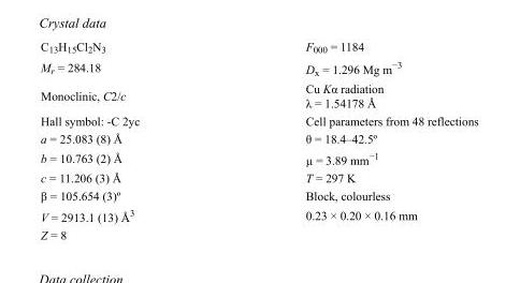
<table><tbody><tr><td>C<sub>13</sub>H<sub>15</sub>Cl<sub>2</sub>N<sub>3</sub></td><td>F000 = 1184</td></tr><tr><td>M<sub>r</sub> = 284.18</td><td>D<sub>x</sub> = 1.296 Mg m<sup>−3</sup></td></tr><tr><td>Monoclinic, C2/c</td><td>Cu Kα radiation λ = 1.54178 Å</td></tr><tr><td>Hall symbol: -C 2yc</td><td>Cell parameters from 48 reflections</td></tr><tr><td>a = 25.083 (8) Å</td><td>θ = 18.4–42.5º</td></tr><tr><td>b = 10.763 (2) Å</td><td>µ = 3.89 mm<sup>−1</sup></td></tr><tr><td>c = 11.206 (3) Å</td><td>T = 297 K</td></tr><tr><td>β = 105.654 (3)º</td><td>Block, colourless</td></tr><tr><td>V = 2913.1 (13) Å<sup>3</sup></td><td>0.23 × 0.20 × 0.16 mm</td></tr><tr><td>Z = 8</td><td></td></tr></tbody></table>